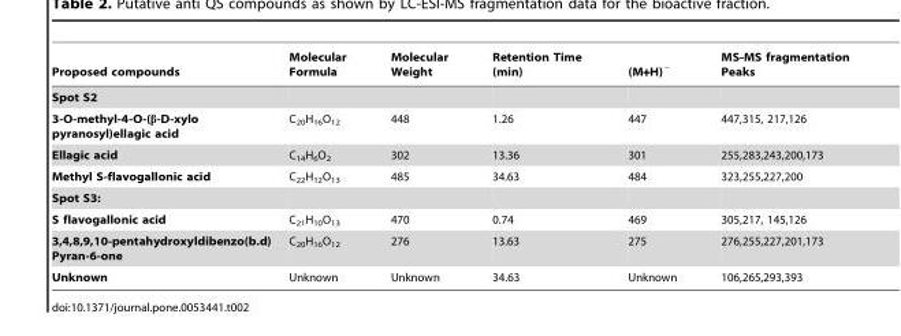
<table><thead><tr><td>Proposed compounds</td><td>Molecular Formula</td><td>Molecular Weight</td><td>Retention Time (min)</td><td>(M+H)<sup>−</sup></td><td>MS-MS fragmentation Peaks</td></tr></thead><tbody><tr><td colspan="6">Spot S2</td></tr><tr><td>3-O-methyl-4-O-(β-D-xylo pyranosyl)ellagic acid</td><td>C<sub>20</sub>H<sub>16</sub>O<sub>12</sub></td><td>448</td><td>1.26</td><td>447</td><td>447,315, 217,126</td></tr><tr><td>Ellagic acid</td><td>C<sub>14</sub>H<sub>6</sub>O<sub>2</sub></td><td>302</td><td>13.36</td><td>301</td><td>255,283,243,200,173</td></tr><tr><td>Methyl S-flavogallonic acid</td><td>C<sub>22</sub>H<sub>12</sub>O<sub>13</sub></td><td>485</td><td>34.63</td><td>484</td><td>323,255,227,200</td></tr><tr><td colspan="6">Spot S3:</td></tr><tr><td>S flavogallonic acid</td><td>C<sub>21</sub>H<sub>10</sub>O<sub>13</sub></td><td>470</td><td>0.74</td><td>469</td><td>305,217, 145,126</td></tr><tr><td>3,4,8,9,10-pentahydroxyldibenzo(b.d) Pyran-6-one</td><td>C<sub>20</sub>H<sub>16</sub>O<sub>12</sub></td><td>276</td><td>13.63</td><td>275</td><td>276,255,227,201,173</td></tr><tr><td>Unknown</td><td>Unknown</td><td>Unknown</td><td>34.63</td><td>Unknown</td><td>106,265,293,393</td></tr></tbody></table>